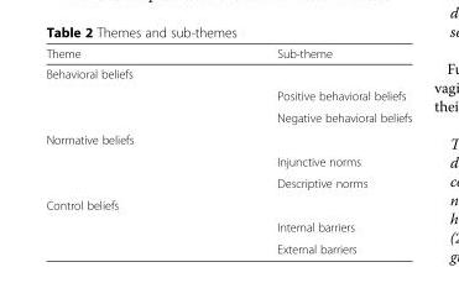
<table><thead><tr><td>Theme</td><td>Sub-theme</td></tr></thead><tbody><tr><td colspan="2">Behavioral beliefs</td></tr><tr><td></td><td>Positive behavioral beliefs</td></tr><tr><td></td><td>Negative behavioral beliefs</td></tr><tr><td colspan="2">Normative beliefs</td></tr><tr><td></td><td>Injunctive norms</td></tr><tr><td></td><td>Descriptive norms</td></tr><tr><td colspan="2">Control beliefs</td></tr><tr><td></td><td>Internal barriers</td></tr><tr><td></td><td>External barriers</td></tr></tbody></table>